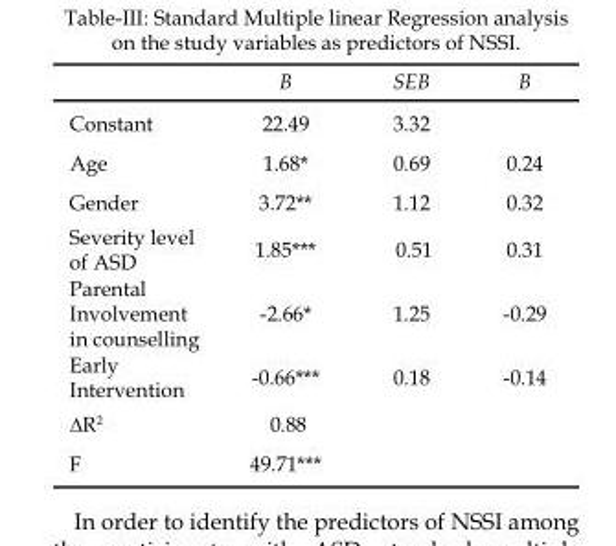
<table><thead><tr><td></td><td>B</td><td>SEB</td><td>Β</td></tr></thead><tbody><tr><td>Constant</td><td>22.49</td><td>3.32</td><td></td></tr><tr><td>Age</td><td>1.68*</td><td>0.69</td><td>0.24</td></tr><tr><td>Gender</td><td>3.72**</td><td>1.12</td><td>0.32</td></tr><tr><td>Severity level of ASD</td><td>1.85***</td><td>0.51</td><td>0.31</td></tr><tr><td>Parental Involvement in counselling</td><td>-2.66*</td><td>1.25</td><td>-0.29</td></tr><tr><td>Early Intervention</td><td>-0.66***</td><td>0.18</td><td>-0.14</td></tr><tr><td>∆R<sup>2</sup></td><td>0.88</td><td></td><td></td></tr><tr><td>F</td><td>49.71***</td><td></td><td></td></tr></tbody></table>